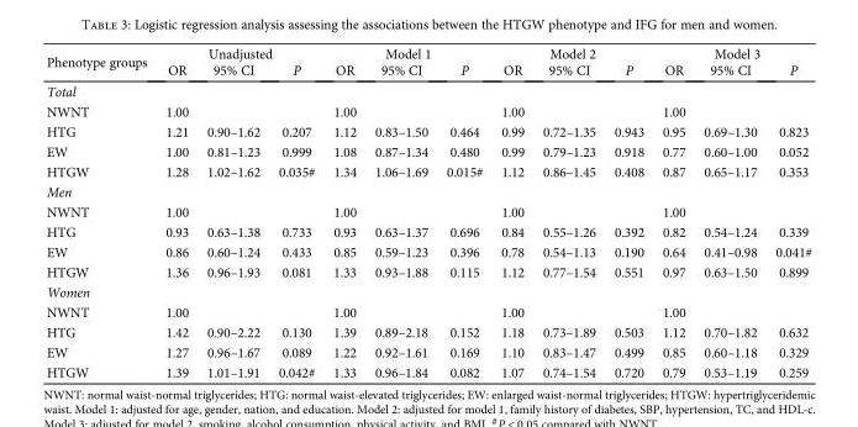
<table><thead><tr><td rowspan="2">Phenotype groups</td><td colspan="3">Unadjusted</td><td colspan="3">Model 1</td><td colspan="3">Model 2</td><td colspan="3">Model 3</td></tr><tr><td>OR</td><td>95% CI</td><td>P</td><td>OR</td><td>95% CI</td><td>P</td><td>OR</td><td>95% CI</td><td>P</td><td>OR</td><td>95% CI</td><td>P</td></tr></thead><tbody><tr><td colspan="13">Total</td></tr><tr><td>NWNT</td><td>1.00</td><td></td><td></td><td>1.00</td><td></td><td></td><td>1.00</td><td></td><td></td><td>1.00</td><td></td><td></td></tr><tr><td>HTG</td><td>1.21</td><td>0.90–1.62</td><td>0.207</td><td>1.12</td><td>0.83–1.50</td><td>0.464</td><td>0.99</td><td>0.72–1.35</td><td>0.943</td><td>0.95</td><td>0.69–1.30</td><td>0.823</td></tr><tr><td>EW</td><td>1.00</td><td>0.81–1.23</td><td>0.999</td><td>1.08</td><td>0.87–1.34</td><td>0.480</td><td>0.99</td><td>0.79–1.23</td><td>0.918</td><td>0.77</td><td>0.60–1.00</td><td>0.052</td></tr><tr><td>HTGW</td><td>1.28</td><td>1.02–1.62</td><td>0.035#</td><td>1.34</td><td>1.06–1.69</td><td>0.015#</td><td>1.12</td><td>0.86–1.45</td><td>0.408</td><td>0.87</td><td>0.65–1.17</td><td>0.353</td></tr><tr><td colspan="13">Men</td></tr><tr><td>NWNT</td><td>1.00</td><td></td><td></td><td>1.00</td><td></td><td></td><td>1.00</td><td></td><td></td><td>1.00</td><td></td><td></td></tr><tr><td>HTG</td><td>0.93</td><td>0.63–1.38</td><td>0.733</td><td>0.93</td><td>0.63–1.37</td><td>0.696</td><td>0.84</td><td>0.55–1.26</td><td>0.392</td><td>0.82</td><td>0.54–1.24</td><td>0.339</td></tr><tr><td>EW</td><td>0.86</td><td>0.60–1.24</td><td>0.433</td><td>0.85</td><td>0.59–1.23</td><td>0.396</td><td>0.78</td><td>0.54–1.13</td><td>0.190</td><td>0.64</td><td>0.41–0.98</td><td>0.041#</td></tr><tr><td>HTGW</td><td>1.36</td><td>0.96–1.93</td><td>0.081</td><td>1.33</td><td>0.93–1.88</td><td>0.115</td><td>1.12</td><td>0.77–1.54</td><td>0.551</td><td>0.97</td><td>0.63–1.50</td><td>0.899</td></tr><tr><td colspan="13">Women</td></tr><tr><td>NWNT</td><td>1.00</td><td></td><td></td><td>1.00</td><td></td><td></td><td>1.00</td><td></td><td></td><td>1.00</td><td></td><td></td></tr><tr><td>HTG</td><td>1.42</td><td>0.90–2.22</td><td>0.130</td><td>1.39</td><td>0.89–2.18</td><td>0.152</td><td>1.18</td><td>0.73–1.89</td><td>0.503</td><td>1.12</td><td>0.70–1.82</td><td>0.632</td></tr><tr><td>EW</td><td>1.27</td><td>0.96–1.67</td><td>0.089</td><td>1.22</td><td>0.92–1.61</td><td>0.169</td><td>1.10</td><td>0.83–1.47</td><td>0.499</td><td>0.85</td><td>0.60–1.18</td><td>0.329</td></tr><tr><td>HTGW</td><td>1.39</td><td>1.01–1.91</td><td>0.042#</td><td>1.33</td><td>0.96–1.84</td><td>0.082</td><td>1.07</td><td>0.74–1.54</td><td>0.720</td><td>0.79</td><td>0.53–1.19</td><td>0.259</td></tr></tbody></table>